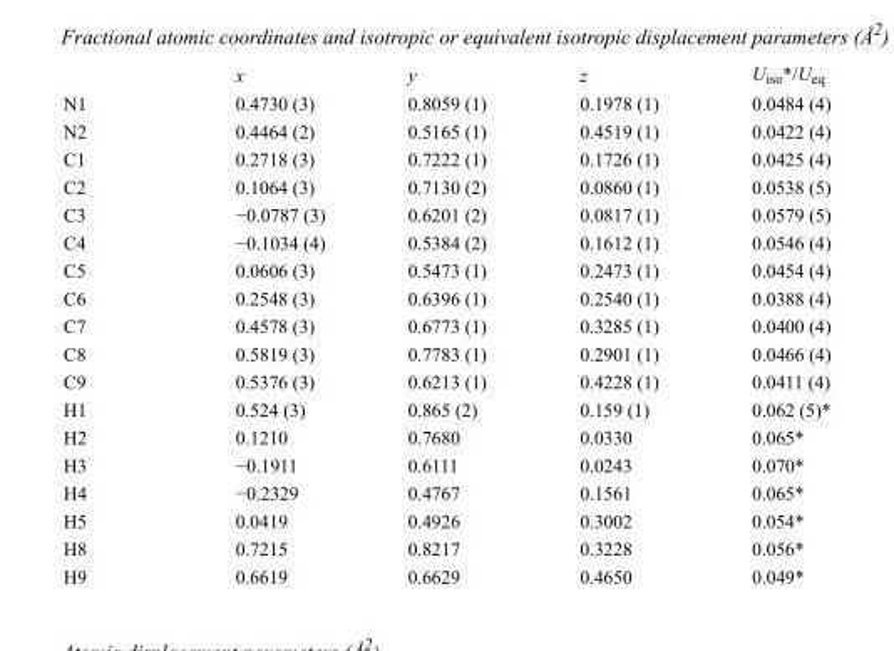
<table><thead><tr><td></td><td>x</td><td>y</td><td>z</td><td>U<sub>iso</sub>*/U<sub>eq</sub></td></tr></thead><tbody><tr><td>N1</td><td>0.4730 (3)</td><td>0.8059 (1)</td><td>0.1978 (1)</td><td>0.0484 (4)</td></tr><tr><td>N2</td><td>0.4464 (2)</td><td>0.5165 (1)</td><td>0.4519 (1)</td><td>0.0422 (4)</td></tr><tr><td>C1</td><td>0.2718 (3)</td><td>0.7222 (1)</td><td>0.1726 (1)</td><td>0.0425 (4)</td></tr><tr><td>C2</td><td>0.1064 (3)</td><td>0.7130 (2)</td><td>0.0860 (1)</td><td>0.0538 (5)</td></tr><tr><td>C3</td><td>−0.0787 (3)</td><td>0.6201 (2)</td><td>0.0817 (1)</td><td>0.0579 (5)</td></tr><tr><td>C4</td><td>−0.1034 (4)</td><td>0.5384 (2)</td><td>0.1612 (1)</td><td>0.0546 (4)</td></tr><tr><td>C5</td><td>0.0606 (3)</td><td>0.5473 (1)</td><td>0.2473 (1)</td><td>0.0454 (4)</td></tr><tr><td>C6</td><td>0.2548 (3)</td><td>0.6396 (1)</td><td>0.2540 (1)</td><td>0.0388 (4)</td></tr><tr><td>C7</td><td>0.4578 (3)</td><td>0.6773 (1)</td><td>0.3285 (1)</td><td>0.0400 (4)</td></tr><tr><td>C8</td><td>0.5819 (3)</td><td>0.7783 (1)</td><td>0.2901 (1)</td><td>0.0466 (4)</td></tr><tr><td>C9</td><td>0.5376 (3)</td><td>0.6213 (1)</td><td>0.4228 (1)</td><td>0.0411 (4)</td></tr><tr><td>H1</td><td>0.524 (3)</td><td>0.865 (2)</td><td>0.159 (1)</td><td>0.062 (5)*</td></tr><tr><td>H2</td><td>0.1210</td><td>0.7680</td><td>0.0330</td><td>0.065*</td></tr><tr><td>H3</td><td>−0.1911</td><td>0.6111</td><td>0.0243</td><td>0.070*</td></tr><tr><td>H4</td><td>−0.2329</td><td>0.4767</td><td>0.1561</td><td>0.065*</td></tr><tr><td>H5</td><td>0.0419</td><td>0.4926</td><td>0.3002</td><td>0.054*</td></tr><tr><td>H8</td><td>0.7215</td><td>0.8217</td><td>0.3228</td><td>0.056*</td></tr><tr><td>H9</td><td>0.6619</td><td>0.6629</td><td>0.4650</td><td>0.049*</td></tr></tbody></table>